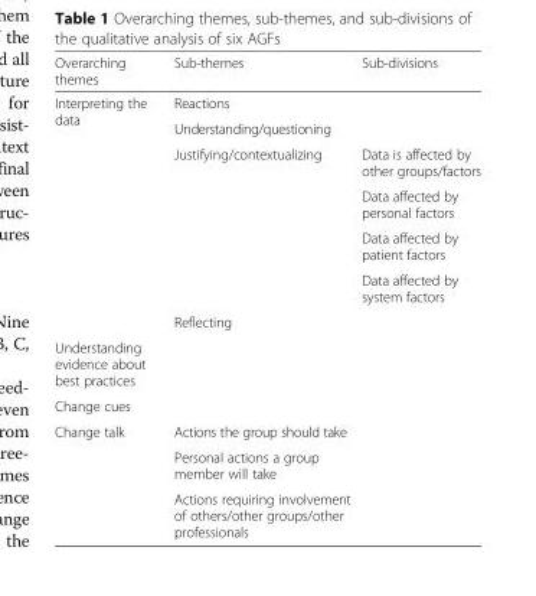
<table><thead><tr><td>Overarching themes</td><td>Sub-themes</td><td>Sub-divisions</td></tr></thead><tbody><tr><td rowspan="7">Interpreting the data</td><td>Reactions</td><td></td></tr><tr><td>Understanding/questioning</td><td></td></tr><tr><td rowspan="4">Justifying/contextualizing</td><td>Data is affected by other groups/factors</td></tr><tr><td>Data affected by personal factors</td></tr><tr><td>Data affected by patient factors</td></tr><tr><td>Data affected by system factors</td></tr><tr><td>Reflecting</td><td></td></tr><tr><td colspan="3">Understanding evidence about best practices</td></tr><tr><td colspan="3">Change cues</td></tr><tr><td rowspan="3">Change talk</td><td>Actions the group should take</td><td rowspan="3"></td></tr><tr><td>Personal actions a group member will take</td></tr><tr><td>Actions requiring involvement of others/other groups/other professionals</td></tr></tbody></table>